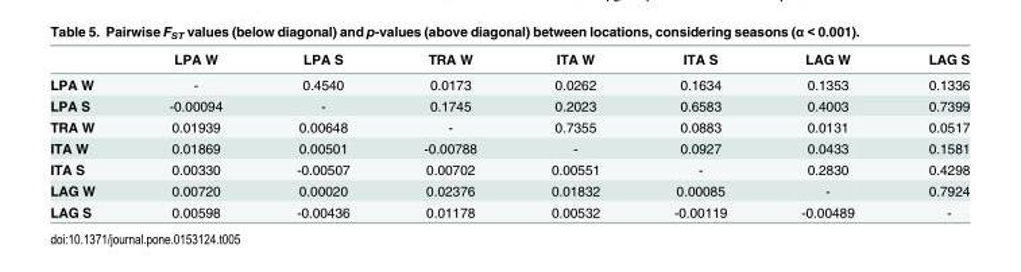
<table><thead><tr><td></td><td>LPA W</td><td>LPA S</td><td>TRA W</td><td>ITA W</td><td>ITA S</td><td>LAG W</td><td>LAG S</td></tr></thead><tbody><tr><td>LPA W</td><td>-</td><td>0.4540</td><td>0.0173</td><td>0.0262</td><td>0.1634</td><td>0.1353</td><td>0.1336</td></tr><tr><td>LPA S</td><td>-0.00094</td><td>-</td><td>0.1745</td><td>0.2023</td><td>0.6583</td><td>0.4003</td><td>0.7399</td></tr><tr><td>TRA W</td><td>0.01939</td><td>0.00648</td><td>-</td><td>0.7355</td><td>0.0883</td><td>0.0131</td><td>0.0517</td></tr><tr><td>ITA W</td><td>0.01869</td><td>0.00501</td><td>-0.00788</td><td>-</td><td>0.0927</td><td>0.0433</td><td>0.1581</td></tr><tr><td>ITA S</td><td>0.00330</td><td>-0.00507</td><td>0.00702</td><td>0.00551</td><td>-</td><td>0.2830</td><td>0.4298</td></tr><tr><td>LAG W</td><td>0.00720</td><td>0.00020</td><td>0.02376</td><td>0.01832</td><td>0.00085</td><td>-</td><td>0.7924</td></tr><tr><td>LAG S</td><td>0.00598</td><td>-0.00436</td><td>0.01178</td><td>0.00532</td><td>-0.00119</td><td>-0.00489</td><td>-</td></tr></tbody></table>